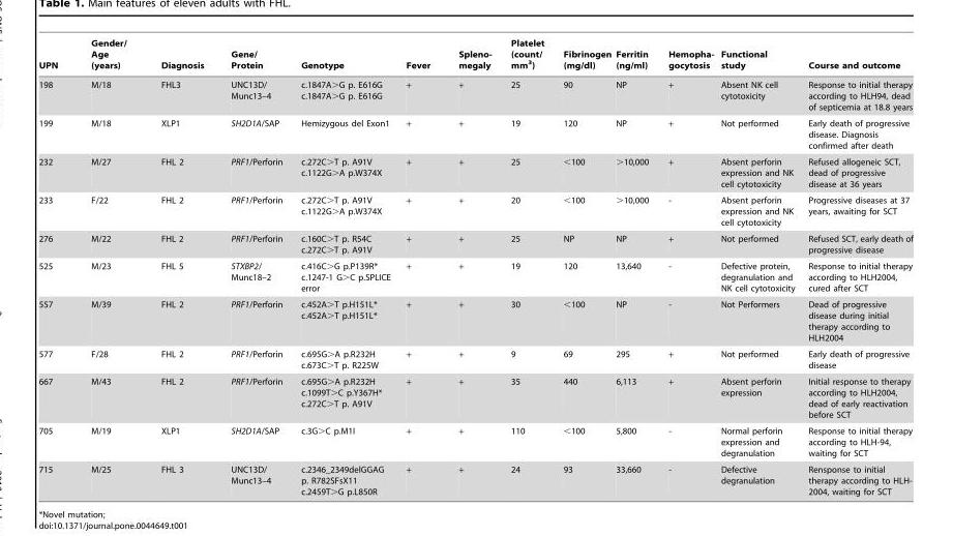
<table><thead><tr><td>UPN</td><td>Gender/ Age (years)</td><td>Diagnosis</td><td>Gene/ Protein</td><td>Genotype</td><td>Fever</td><td>Spleno- megaly</td><td>Platelet (count/ mm<sup>3</sup>)</td><td>Fibrinogen (mg/dl)</td><td>Ferritin (ng/ml)</td><td>Hemopha- gocytosis</td><td>Functional study</td><td>Course and outcome</td></tr></thead><tbody><tr><td>198</td><td>M/18</td><td>FHL3</td><td>UNC13D/ Munc13–4</td><td>c.1847A&gt;G p. E616G c.1847A&gt;G p. E616G</td><td>+</td><td>+</td><td>25</td><td>90</td><td>NP</td><td>+</td><td>Absent NK cell cytotoxicity</td><td>Response to initial therapy according to HLH94, dead of septicemia at 18.8 years</td></tr><tr><td>199</td><td>M/18</td><td>XLP1</td><td>SH2D1A/SAP</td><td>Hemizygous del Exon1</td><td>+</td><td>+</td><td>19</td><td>120</td><td>NP</td><td>+</td><td>Not performed</td><td>Early death of progressive disease. Diagnosis confirmed after death</td></tr><tr><td>232</td><td>M/27</td><td>FHL 2</td><td>PRF1/Perforin</td><td>c.272C&gt;T p. A91V c.1122G&gt;A p.W374X</td><td>+</td><td>+</td><td>25</td><td>&lt;100</td><td>&gt;10,000</td><td>+</td><td>Absent perforin expression and NK cell cytotoxicity</td><td>Refused allogeneic SCT, dead of progressive disease at 36 years</td></tr><tr><td>233</td><td>F/22</td><td>FHL 2</td><td>PRF1/Perforin</td><td>c.272C&gt;T p. A91V c.1122G&gt;A p.W374X</td><td>+</td><td>+</td><td>20</td><td>&lt;100</td><td>&gt;10,000</td><td>-</td><td>Absent perforin expression and NK cell cytotoxicity</td><td>Progressive diseases at 37 years, awaiting for SCT</td></tr><tr><td>276</td><td>M/22</td><td>FHL 2</td><td>PRF1/Perforin</td><td>c.160C&gt;T p. R54C c.272C&gt;T p. A91V</td><td>+</td><td>+</td><td>25</td><td>NP</td><td>NP</td><td>+</td><td>Not performed</td><td>Refused SCT, early death of progressive disease</td></tr><tr><td>525</td><td>M/23</td><td>FHL 5</td><td>STXBP2/ Munc18–2</td><td>c.416C&gt;G p.P139R* c.1247-1 G&gt;C p.SPLICE error</td><td>+</td><td>+</td><td>19</td><td>120</td><td>13,640</td><td>-</td><td>Defective protein, degranulation and NK cell cytotoxicity</td><td>Response to initial therapy according to HLH2004, cured after SCT</td></tr><tr><td>557</td><td>M/39</td><td>FHL 2</td><td>PRF1/Perforin</td><td>c.452A&gt;T p.H151L* c.452A&gt;T p.H151L*</td><td>+</td><td>+</td><td>30</td><td>&lt;100</td><td>NP</td><td>-</td><td>Not Performers</td><td>Dead of progressive disease during initial therapy according to HLH2004</td></tr><tr><td>577</td><td>F/28</td><td>FHL 2</td><td>PRF1/Perforin</td><td>c.695G&gt;A p.R232H c.673C&gt;T p. R225W</td><td>+</td><td>+</td><td>9</td><td>69</td><td>295</td><td>+</td><td>Not performed</td><td>Early death of progressive disease</td></tr><tr><td>667</td><td>M/43</td><td>FHL 2</td><td>PRF1/Perforin</td><td>c.695G&gt;A p.R232H c.1099T&gt;C p.Y367H* c.272C&gt;T p. A91V</td><td>+</td><td>+</td><td>35</td><td>440</td><td>6,113</td><td>+</td><td>Absent perforin expression</td><td>Initial response to therapy according to HLH2004, dead of early reactivation before SCT</td></tr><tr><td>705</td><td>M/19</td><td>XLP1</td><td>SH2D1A/SAP</td><td>c.3G&gt;C p.M1I</td><td>+</td><td>+</td><td>110</td><td>&lt;100</td><td>5,800</td><td>-</td><td>Normal perforin expression and degranulation</td><td>Response to initial therapy according to HLH-94, waiting for SCT</td></tr><tr><td>715</td><td>M/25</td><td>FHL 3</td><td>UNC13D/ Munc13–4</td><td>c.2346_2349delGGAG p. R782SFsX11 c.2459T&gt;G p.L850R</td><td>+</td><td>+</td><td>24</td><td>93</td><td>33,660</td><td>-</td><td>Defective degranulation</td><td>Rensponse to initial therapy according to HLH- 2004, waiting for SCT</td></tr></tbody></table>